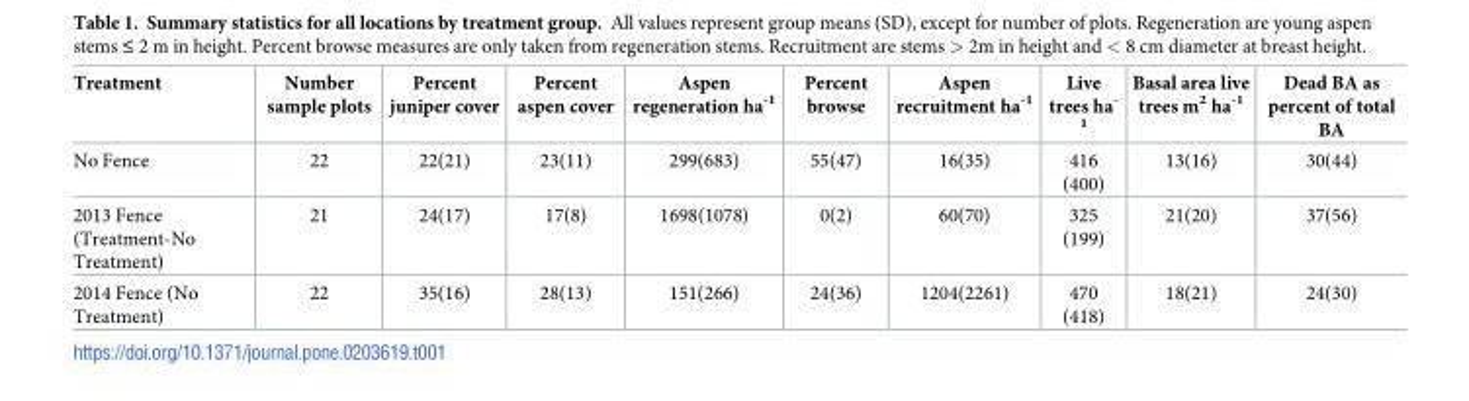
<table><thead><tr><td>Treatment</td><td>Number sample plots</td><td>Percent juniper cover</td><td>Percent aspen cover</td><td>Aspen regeneration ha<sup>-1</sup></td><td>Percent browse</td><td>Aspen recruitment ha<sup>-1</sup></td><td>Live trees ha<sup>- 1</sup></td><td>Basal area live trees m<sup>2</sup> ha<sup>-1</sup></td><td>Dead BA as percent of total BA</td></tr></thead><tbody><tr><td>No Fence</td><td>22</td><td>22(21)</td><td>23(11)</td><td>299(683)</td><td>55(47)</td><td>16(35)</td><td>416 (400)</td><td>13(16)</td><td>30(44)</td></tr><tr><td>2013 Fence (Treatment-No Treatment)</td><td>21</td><td>24(17)</td><td>17(8)</td><td>1698(1078)</td><td>0(2)</td><td>60(70)</td><td>325 (199)</td><td>21(20)</td><td>37(56)</td></tr><tr><td>2014 Fence (No Treatment)</td><td>22</td><td>35(16)</td><td>28(13)</td><td>151(266)</td><td>24(36)</td><td>1204(2261)</td><td>470 (418)</td><td>18(21)</td><td>24(30)</td></tr></tbody></table>